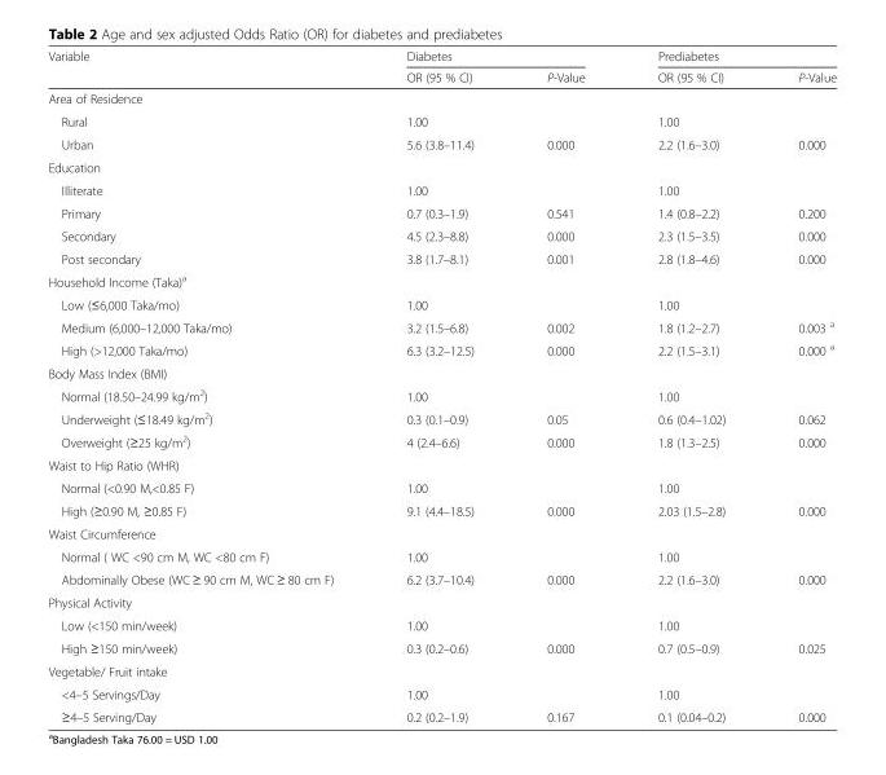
<table><thead><tr><td rowspan="2">Variable</td><td colspan="2">Diabetes</td><td colspan="2">Prediabetes</td></tr><tr><td>OR (95 % CI)</td><td>P-Value</td><td>OR (95 % CI)</td><td>P-Value</td></tr></thead><tbody><tr><td colspan="5">Area of Residence</td></tr><tr><td>Rural</td><td>1.00</td><td></td><td>1.00</td><td></td></tr><tr><td>Urban</td><td>5.6 (3.8–11.4)</td><td>0.000</td><td>2.2 (1.6–3.0)</td><td>0.000</td></tr><tr><td colspan="5">Education</td></tr><tr><td>Illiterate</td><td>1.00</td><td></td><td>1.00</td><td></td></tr><tr><td>Primary</td><td>0.7 (0.3–1.9)</td><td>0.541</td><td>1.4 (0.8–2.2)</td><td>0.200</td></tr><tr><td>Secondary</td><td>4.5 (2.3–8.8)</td><td>0.000</td><td>2.3 (1.5–3.5)</td><td>0.000</td></tr><tr><td>Post secondary</td><td>3.8 (1.7–8.1)</td><td>0.001</td><td>2.8 (1.8–4.6)</td><td>0.000</td></tr><tr><td colspan="5">Household Income (Taka)<sup>a</sup></td></tr><tr><td>Low (≤6,000 Taka/mo)</td><td>1.00</td><td></td><td>1.00</td><td></td></tr><tr><td>Medium (6,000–12,000 Taka/mo)</td><td>3.2 (1.5–6.8)</td><td>0.002</td><td>1.8 (1.2–2.7)</td><td>0.003 <sup>a</sup></td></tr><tr><td>High (&gt;12,000 Taka/mo)</td><td>6.3 (3.2–12.5)</td><td>0.000</td><td>2.2 (1.5–3.1)</td><td>0.000 <sup>a</sup></td></tr><tr><td colspan="5">Body Mass Index (BMI)</td></tr><tr><td>Normal (18.50–24.99 kg/m<sup>2</sup>)</td><td>1.00</td><td></td><td>1.00</td><td></td></tr><tr><td>Underweight (≤18.49 kg/m<sup>2</sup>)</td><td>0.3 (0.1–0.9)</td><td>0.05</td><td>0.6 (0.4–1.02)</td><td>0.062</td></tr><tr><td>Overweight (≥25 kg/m<sup>2</sup>)</td><td>4 (2.4–6.6)</td><td>0.000</td><td>1.8 (1.3–2.5)</td><td>0.000</td></tr><tr><td colspan="5">Waist to Hip Ratio (WHR)</td></tr><tr><td>Normal (&lt;0.90 M,&lt;0.85 F)</td><td>1.00</td><td></td><td>1.00</td><td></td></tr><tr><td>High (≥0.90 M, ≥0.85 F)</td><td>9.1 (4.4–18.5)</td><td>0.000</td><td>2.03 (1.5–2.8)</td><td>0.000</td></tr><tr><td colspan="5">Waist Circumference</td></tr><tr><td>Normal ( WC &lt;90 cm M, WC &lt;80 cm F)</td><td>1.00</td><td></td><td>1.00</td><td></td></tr><tr><td>Abdominally Obese (WC ≥ 90 cm M, WC ≥ 80 cm F)</td><td>6.2 (3.7–10.4)</td><td>0.000</td><td>2.2 (1.6–3.0)</td><td>0.000</td></tr><tr><td colspan="5">Physical Activity</td></tr><tr><td>Low (&lt;150 min/week)</td><td>1.00</td><td></td><td>1.00</td><td></td></tr><tr><td>High ≥150 min/week)</td><td>0.3 (0.2–0.6)</td><td>0.000</td><td>0.7 (0.5–0.9)</td><td>0.025</td></tr><tr><td colspan="5">Vegetable/ Fruit intake</td></tr><tr><td>&lt;4–5 Servings/Day</td><td>1.00</td><td></td><td>1.00</td><td></td></tr><tr><td>≥4–5 Serving/Day</td><td>0.2 (0.2–1.9)</td><td>0.167</td><td>0.1 (0.04–0.2)</td><td>0.000</td></tr></tbody></table>